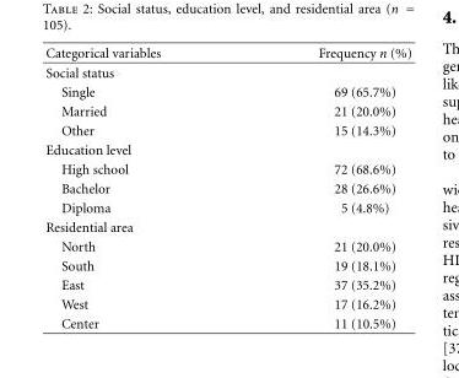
<table><thead><tr><td>Categorical variables</td><td>Frequency n (%)</td></tr></thead><tbody><tr><td colspan="2">Social status</td></tr><tr><td>Single</td><td>69 (65.7%)</td></tr><tr><td>Married</td><td>21 (20.0%)</td></tr><tr><td>Other</td><td>15 (14.3%)</td></tr><tr><td colspan="2">Education level</td></tr><tr><td>High school</td><td>72 (68.6%)</td></tr><tr><td>Bachelor</td><td>28 (26.6%)</td></tr><tr><td>Diploma</td><td>5 (4.8%)</td></tr><tr><td colspan="2">Residential area</td></tr><tr><td>North</td><td>21 (20.0%)</td></tr><tr><td>South</td><td>19 (18.1%)</td></tr><tr><td>East</td><td>37 (35.2%)</td></tr><tr><td>West</td><td>17 (16.2%)</td></tr><tr><td>Center</td><td>11 (10.5%)</td></tr></tbody></table>